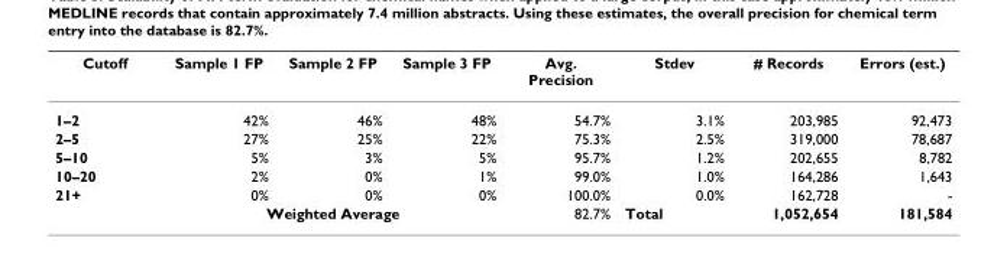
<table><thead><tr><td>Cutoff</td><td>Sample 1 FP</td><td>Sample 2 FP</td><td>Sample 3 FP</td><td>Avg. Precision</td><td>Stdev</td><td># Records</td><td>Errors (est.)</td></tr></thead><tbody><tr><td>1–2</td><td>42%</td><td>46%</td><td>48%</td><td>54.7%</td><td>3.1%</td><td>203,985</td><td>92,473</td></tr><tr><td>2–5</td><td>27%</td><td>25%</td><td>22%</td><td>75.3%</td><td>2.5%</td><td>319,000</td><td>78,687</td></tr><tr><td>5–10</td><td>5%</td><td>3%</td><td>5%</td><td>95.7%</td><td>1.2%</td><td>202,655</td><td>8,782</td></tr><tr><td>10–20</td><td>2%</td><td>0%</td><td>1%</td><td>99.0%</td><td>1.0%</td><td>164,286</td><td>1,643</td></tr><tr><td rowspan="2">21+</td><td>0%</td><td>0%</td><td>0%</td><td>100.0%</td><td>0.0%</td><td>162,728</td><td>-</td></tr><tr><td colspan="3">Weighted Average</td><td>82.7%</td><td>Total</td><td>1,052,654</td><td>181,584</td></tr></tbody></table>